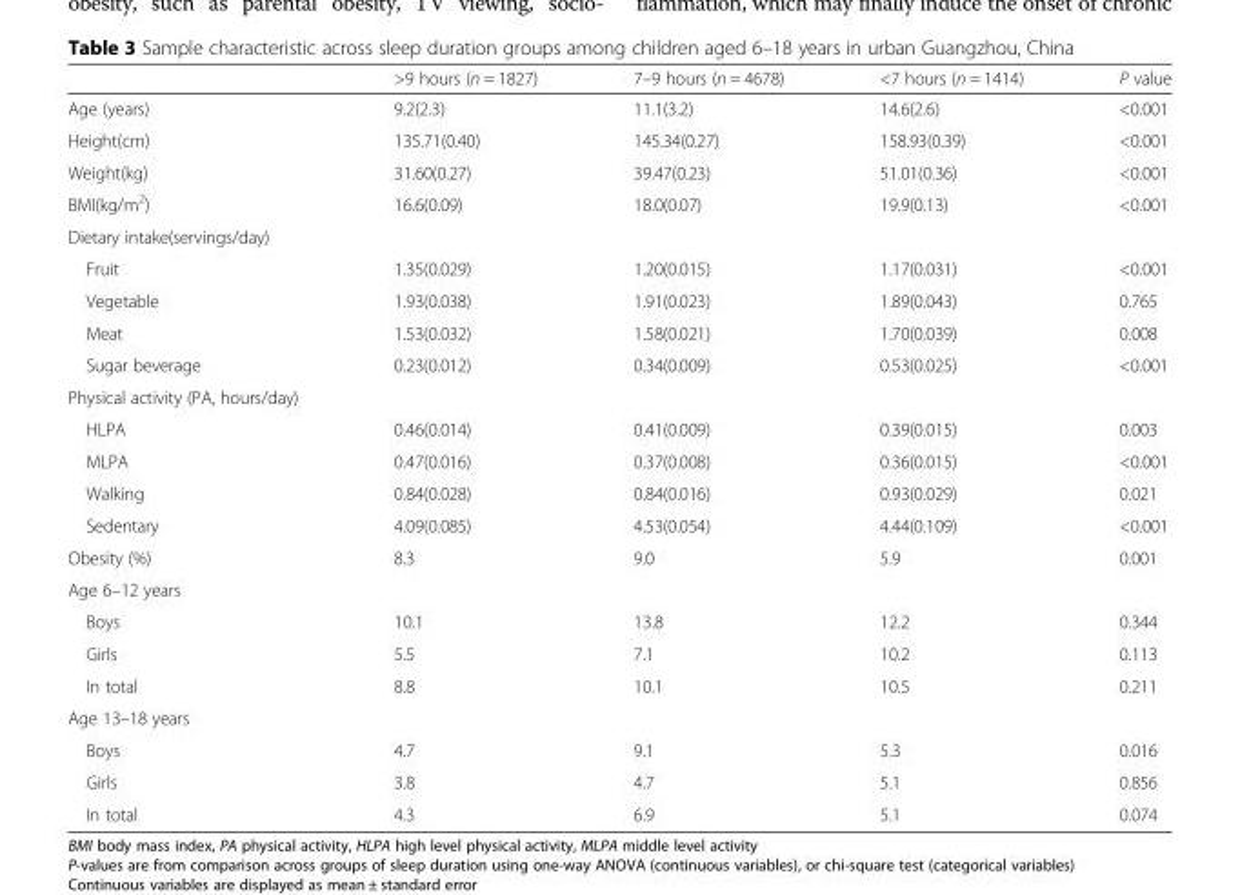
<table><thead><tr><td></td><td>&gt;9 hours (n = 1827)</td><td>7–9 hours (n = 4678)</td><td>&lt;7 hours (n = 1414)</td><td>P value</td></tr></thead><tbody><tr><td>Age (years)</td><td>9.2(2.3)</td><td>11.1(3.2)</td><td>14.6(2.6)</td><td>&lt;0.001</td></tr><tr><td>Height(cm)</td><td>135.71(0.40)</td><td>145.34(0.27)</td><td>158.93(0.39)</td><td>&lt;0.001</td></tr><tr><td>Weight(kg)</td><td>31.60(0.27)</td><td>39.47(0.23)</td><td>51.01(0.36)</td><td>&lt;0.001</td></tr><tr><td>BMI(kg/m<sup>2</sup>)</td><td>16.6(0.09)</td><td>18.0(0.07)</td><td>19.9(0.13)</td><td>&lt;0.001</td></tr><tr><td colspan="5">Dietary intake(servings/day)</td></tr><tr><td>Fruit</td><td>1.35(0.029)</td><td>1.20(0.015)</td><td>1.17(0.031)</td><td>&lt;0.001</td></tr><tr><td>Vegetable</td><td>1.93(0.038)</td><td>1.91(0.023)</td><td>1.89(0.043)</td><td>0.765</td></tr><tr><td>Meat</td><td>1.53(0.032)</td><td>1.58(0.021)</td><td>1.70(0.039)</td><td>0.008</td></tr><tr><td>Sugar beverage</td><td>0.23(0.012)</td><td>0.34(0.009)</td><td>0.53(0.025)</td><td>&lt;0.001</td></tr><tr><td colspan="5">Physical activity (PA, hours/day)</td></tr><tr><td>HLPA</td><td>0.46(0.014)</td><td>0.41(0.009)</td><td>0.39(0.015)</td><td>0.003</td></tr><tr><td>MLPA</td><td>0.47(0.016)</td><td>0.37(0.008)</td><td>0.36(0.015)</td><td>&lt;0.001</td></tr><tr><td>Walking</td><td>0.84(0.028)</td><td>0.84(0.016)</td><td>0.93(0.029)</td><td>0.021</td></tr><tr><td>Sedentary</td><td>4.09(0.085)</td><td>4.53(0.054)</td><td>4.44(0.109)</td><td>&lt;0.001</td></tr><tr><td>Obesity (%)</td><td>8.3</td><td>9.0</td><td>5.9</td><td>0.001</td></tr><tr><td colspan="5">Age 6–12 years</td></tr><tr><td>Boys</td><td>10.1</td><td>13.8</td><td>12.2</td><td>0.344</td></tr><tr><td>Girls</td><td>5.5</td><td>7.1</td><td>10.2</td><td>0.113</td></tr><tr><td>In total</td><td>8.8</td><td>10.1</td><td>10.5</td><td>0.211</td></tr><tr><td colspan="5">Age 13–18 years</td></tr><tr><td>Boys</td><td>4.7</td><td>9.1</td><td>5.3</td><td>0.016</td></tr><tr><td>Girls</td><td>3.8</td><td>4.7</td><td>5.1</td><td>0.856</td></tr><tr><td>In total</td><td>4.3</td><td>6.9</td><td>5.1</td><td>0.074</td></tr></tbody></table>